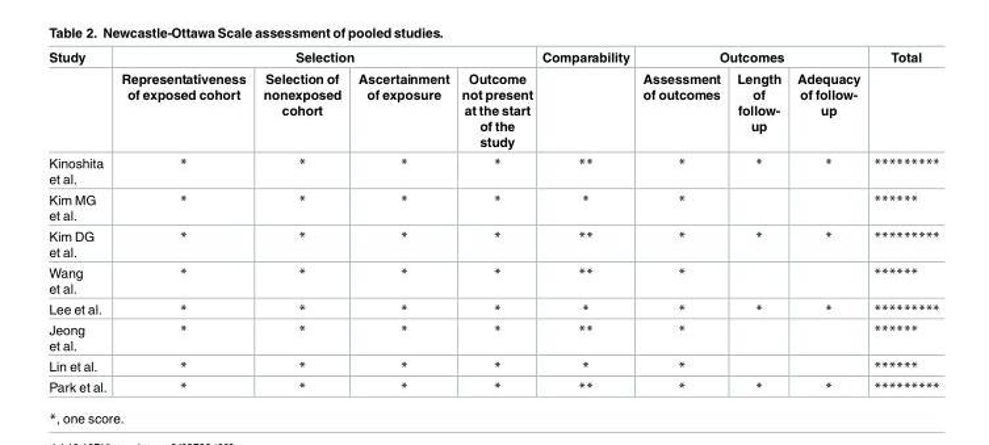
<table><thead><tr><td rowspan="2">Study</td><td colspan="4">Selection</td><td rowspan="2">Comparability</td><td colspan="3">Outcomes</td><td rowspan="2">Total</td></tr><tr><td>Representativeness of exposed cohort</td><td>Selection of nonexposed cohort</td><td>Ascertainment of exposure</td><td>Outcome not present at the start of the study</td><td>Assessment of outcomes</td><td>Length of follow- up</td><td>Adequacy of follow- up</td></tr></thead><tbody><tr><td>Kinoshita et al.</td><td>*</td><td>*</td><td>*</td><td>*</td><td>**</td><td>*</td><td>*</td><td>*</td><td>*********</td></tr><tr><td>Kim MG et al.</td><td>*</td><td>*</td><td>*</td><td>*</td><td>*</td><td>*</td><td></td><td></td><td>******</td></tr><tr><td>Kim DG et al.</td><td>*</td><td>*</td><td>*</td><td>*</td><td>**</td><td>*</td><td>*</td><td>*</td><td>*********</td></tr><tr><td>Wang et al.</td><td>*</td><td>*</td><td>*</td><td>*</td><td>**</td><td>*</td><td></td><td></td><td>******</td></tr><tr><td>Lee et al.</td><td>*</td><td>*</td><td>*</td><td>*</td><td>*</td><td>*</td><td>*</td><td>*</td><td>*********</td></tr><tr><td>Jeong et al.</td><td>*</td><td>*</td><td>*</td><td>*</td><td>**</td><td>*</td><td></td><td></td><td>******</td></tr><tr><td>Lin et al.</td><td>*</td><td>*</td><td>*</td><td>*</td><td>*</td><td>*</td><td></td><td></td><td>******</td></tr><tr><td>Park et al.</td><td>*</td><td>*</td><td>*</td><td>*</td><td>**</td><td>*</td><td>*</td><td>*</td><td>*********</td></tr></tbody></table>